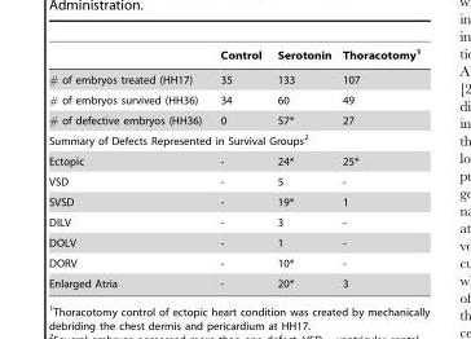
<table><thead><tr><td></td><td>Control</td><td>Serotonin</td><td>Thoracotomy<sup>1</sup></td></tr></thead><tbody><tr><td># of embryos treated (HH17)</td><td>35</td><td>133</td><td>107</td></tr><tr><td># of embryos survived (HH36)</td><td>34</td><td>60</td><td>49</td></tr><tr><td># of defective embryos (HH36)</td><td>0</td><td>57*</td><td>27</td></tr><tr><td colspan="4">Summary of Defects Represented in Survival Groups<sup>2</sup></td></tr><tr><td>Ectopic</td><td>-</td><td>24*</td><td>25*</td></tr><tr><td>VSD</td><td>-</td><td>5</td><td>-</td></tr><tr><td>SVSD</td><td>-</td><td>19*</td><td>1</td></tr><tr><td>DILV</td><td>-</td><td>3</td><td>-</td></tr><tr><td>DOLV</td><td>-</td><td>1</td><td>-</td></tr><tr><td>DORV</td><td>-</td><td>10*</td><td>-</td></tr><tr><td>Enlarged Atria</td><td>-</td><td>20*</td><td>3</td></tr></tbody></table>